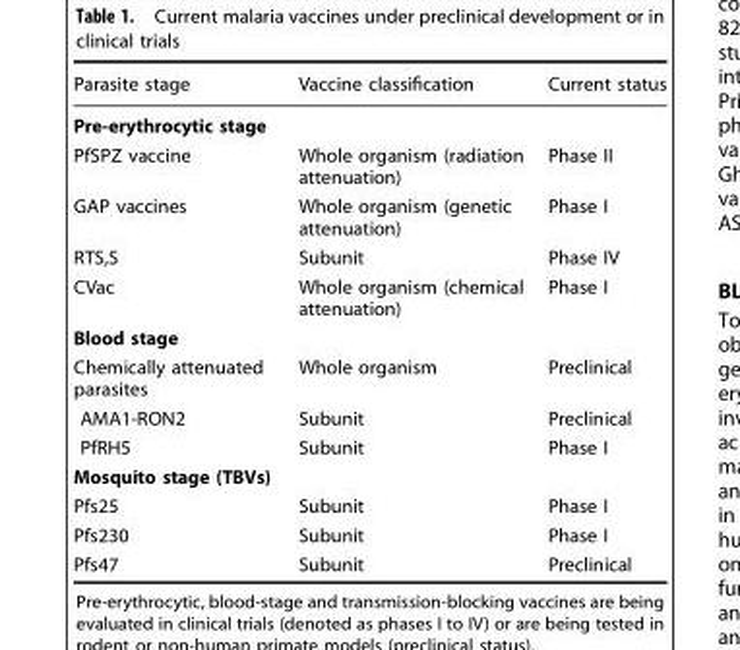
<table><thead><tr><td>Parasite stage</td><td>Vaccine classification</td><td>Current status</td></tr></thead><tbody><tr><td colspan="3">Pre-erythrocytic stage</td></tr><tr><td>PfSPZ vaccine</td><td>Whole organism (radiation attenuation)</td><td>Phase II</td></tr><tr><td>GAP vaccines</td><td>Whole organism (genetic attenuation)</td><td>Phase I</td></tr><tr><td>RTS,S</td><td>Subunit</td><td>Phase IV</td></tr><tr><td>CVac</td><td>Whole organism (chemical attenuation)</td><td>Phase I</td></tr><tr><td colspan="3">Blood stage</td></tr><tr><td>Chemically attenuated parasites</td><td>Whole organism</td><td>Preclinical</td></tr><tr><td>AMA1-RON2</td><td>Subunit</td><td>Preclinical</td></tr><tr><td>PfRH5</td><td>Subunit</td><td>Phase I</td></tr><tr><td colspan="3">Mosquito stage (TBVs)</td></tr><tr><td>Pfs25</td><td>Subunit</td><td>Phase I</td></tr><tr><td>Pfs230</td><td>Subunit</td><td>Phase I</td></tr><tr><td>Pfs47</td><td>Subunit</td><td>Preclinical</td></tr></tbody></table>